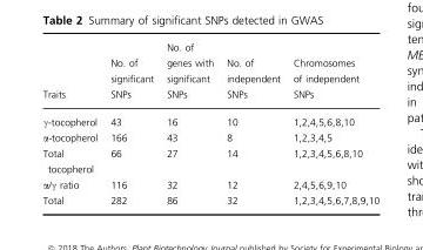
<table><thead><tr><td>Traits</td><td>No. of significant SNPs</td><td>No. of genes with significant SNPs</td><td>No. of independent SNPs</td><td>Chromosomes of independent SNPs</td></tr></thead><tbody><tr><td>γ-tocopherol</td><td>43</td><td>16</td><td>10</td><td>1,2,4,5,6,8,10</td></tr><tr><td>α-tocopherol</td><td>166</td><td>43</td><td>8</td><td>1,2,3,4,5</td></tr><tr><td>Total tocopherol</td><td>66</td><td>27</td><td>14</td><td>1,2,3,4,5,6,8,10</td></tr><tr><td>α/γ ratio</td><td>116</td><td>32</td><td>12</td><td>2,4,5,6,9,10</td></tr><tr><td>Total</td><td>282</td><td>86</td><td>32</td><td>1,2,3,4,5,6,7,8,9,10</td></tr></tbody></table>